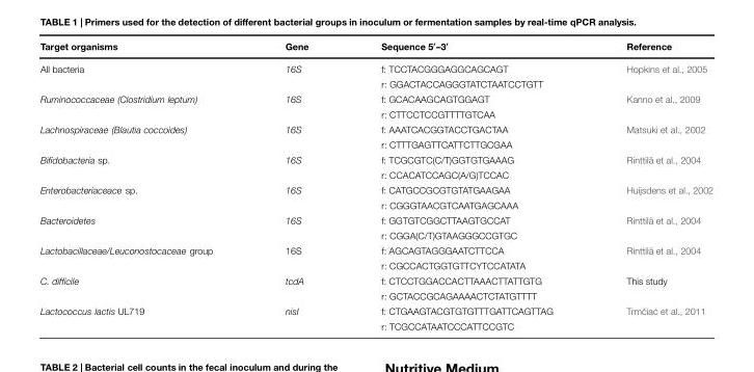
<table><thead><tr><td>Target organisms</td><td>Gene</td><td>Sequence 5′–3′</td><td>Reference</td></tr></thead><tbody><tr><td rowspan="2">All bacteria</td><td>16S</td><td>f: TCCTACGGGAGGCAGCAGT</td><td>Hopkins et al., 2005</td></tr><tr><td></td><td>r: GGACTACCAGGGTATCTAATCCTGTT</td><td></td></tr><tr><td rowspan="2">Ruminococcaceae (Clostridium leptum)</td><td>16S</td><td>f: GCACAAGCAGTGGAGT</td><td>Kanno et al., 2009</td></tr><tr><td></td><td>r: CTTCCTCCGTTTTGTCAA</td><td></td></tr><tr><td rowspan="2">Lachnospiraceae (Blautia coccoides)</td><td>16S</td><td>f: AAATCACGGTACCTGACTAA</td><td>Matsuki et al., 2002</td></tr><tr><td></td><td>r: CTTTGAGTTCATTCTTGCGAA</td><td></td></tr><tr><td rowspan="2">Bifidobacteria sp.</td><td>16S</td><td>f: TCGCGTC(C/T)GGTGTGAAAG</td><td>Rinttilä et al., 2004</td></tr><tr><td></td><td>r: CCACATCCAGC(A/G)TCCAC</td><td></td></tr><tr><td rowspan="2">Enterobacteriaceace sp.</td><td>16S</td><td>f: CATGCCGCGTGTATGAAGAA</td><td>Huijsdens et al., 2002</td></tr><tr><td></td><td>r: CGGGTAACGTCAATGAGCAAA</td><td></td></tr><tr><td rowspan="2">Bacteroidetes</td><td>16S</td><td>f: GGTGTCGGCTTAAGTGCCAT</td><td>Rinttilä et al., 2004</td></tr><tr><td></td><td>r: CGGA(C/T)GTAAGGGCCGTGC</td><td></td></tr><tr><td rowspan="2">Lactobacillaceae/Leuconostocaceae group</td><td>16S</td><td>f: AGCAGTAGGGAATCTTCCA</td><td>Rinttilä et al., 2004</td></tr><tr><td></td><td>r: CGCCACTGGTGTTCYTCCATATA</td><td></td></tr><tr><td rowspan="2">C. difficile</td><td>tcdA</td><td>f: CTCCTGGACCACTTAAACTTATTGTG</td><td>This study</td></tr><tr><td></td><td>r: GCTACCGCAGAAAACTCTATGTTTT</td><td></td></tr><tr><td rowspan="2">Lactococcus lactis UL719</td><td>nisI</td><td>f: CTGAAGTACGTGTGTTTGATTCAGTTAG</td><td>Trm ˇcia ´c et al., 2011</td></tr><tr><td></td><td>r: TCGCCATAATCCCATTCCGTC</td><td></td></tr></tbody></table>